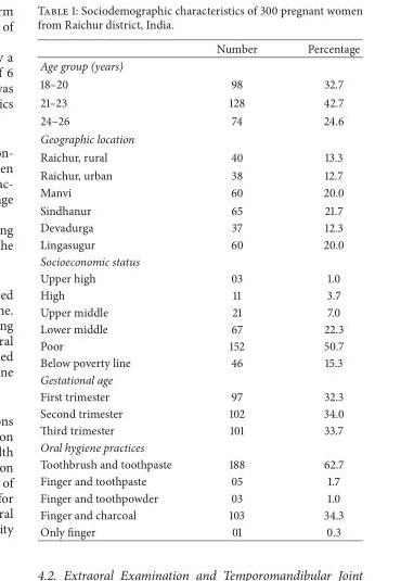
<table><thead><tr><td></td><td>Number</td><td>Percentage</td></tr></thead><tbody><tr><td colspan="3">Age group (years)</td></tr><tr><td>18–20</td><td>98</td><td>32.7</td></tr><tr><td>21–23</td><td>128</td><td>42.7</td></tr><tr><td>24–26</td><td>74</td><td>24.6</td></tr><tr><td colspan="3">Geographic location</td></tr><tr><td>Raichur, rural</td><td>40</td><td>13.3</td></tr><tr><td>Raichur, urban</td><td>38</td><td>12.7</td></tr><tr><td>Manvi</td><td>60</td><td>20.0</td></tr><tr><td>Sindhanur</td><td>65</td><td>21.7</td></tr><tr><td>Devadurga</td><td>37</td><td>12.3</td></tr><tr><td>Lingasugur</td><td>60</td><td>20.0</td></tr><tr><td colspan="3">Socioeconomic status</td></tr><tr><td>Upper high</td><td>03</td><td>1.0</td></tr><tr><td>High</td><td>11</td><td>3.7</td></tr><tr><td>Upper middle</td><td>21</td><td>7.0</td></tr><tr><td>Lower middle</td><td>67</td><td>22.3</td></tr><tr><td>Poor</td><td>152</td><td>50.7</td></tr><tr><td>Below poverty line</td><td>46</td><td>15.3</td></tr><tr><td colspan="3">Gestational age</td></tr><tr><td>First trimester</td><td>97</td><td>32.3</td></tr><tr><td>Second trimester</td><td>102</td><td>34.0</td></tr><tr><td>Third trimester</td><td>101</td><td>33.7</td></tr><tr><td colspan="3">Oral hygiene practices</td></tr><tr><td>Toothbrush and toothpaste</td><td>188</td><td>62.7</td></tr><tr><td>Finger and toothpaste</td><td>05</td><td>1.7</td></tr><tr><td>Finger and toothpowder</td><td>03</td><td>1.0</td></tr><tr><td>Finger and charcoal</td><td>103</td><td>34.3</td></tr><tr><td>Only finger</td><td>01</td><td>0.3</td></tr></tbody></table>